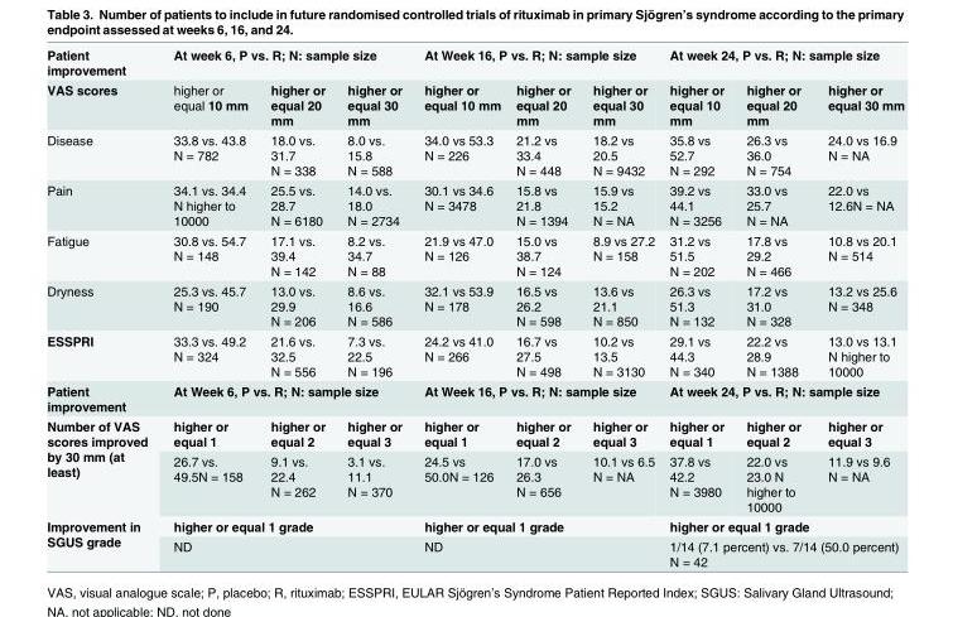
<table><tbody><tr><td>Patient improvement</td><td colspan="3">At week 6, P vs. R; N: sample size</td><td colspan="3">At Week 16, P vs. R; N: sample size</td><td colspan="3">At week 24, P vs. R; N: sample size</td></tr><tr><td>VAS scores</td><td>higher or equal 10 mm</td><td>higher or equal 20 mm</td><td>higher or equal 30 mm</td><td>higher or equal 10 mm</td><td>higher or equal 20 mm</td><td>higher or equal 30 mm</td><td>higher or equal 10 mm</td><td>higher or equal 20 mm</td><td>higher or equal 30 mm</td></tr><tr><td>Disease</td><td>33.8 vs. 43.8 N = 782</td><td>18.0 vs. 31.7 N = 338</td><td>8.0 vs. 15.8 N = 588</td><td>34.0 vs 53.3 N = 226</td><td>21.2 vs 33.4 N = 448</td><td>18.2 vs 20.5 N = 9432</td><td>35.8 vs 52.7 N = 292</td><td>26.3 vs 36.0 N = 754</td><td>24.0 vs 16.9 N = NA</td></tr><tr><td>Pain</td><td>34.1 vs. 34.4 N higher to 10000</td><td>25.5 vs. 28.7 N = 6180</td><td>14.0 vs. 18.0 N = 2734</td><td>30.1 vs 34.6 N = 3478</td><td>15.8 vs 21.8 N = 1394</td><td>15.9 vs 15.2 N = NA</td><td>39.2 vs 44.1 N = 3256</td><td>33.0 vs 25.7 N = NA</td><td>22.0 vs 12.6N = NA</td></tr><tr><td>Fatigue</td><td>30.8 vs. 54.7 N = 148</td><td>17.1 vs. 39.4 N = 142</td><td>8.2 vs. 34.7 N = 88</td><td>21.9 vs 47.0 N = 126</td><td>15.0 vs 38.7 N = 124</td><td>8.9 vs 27.2 N = 158</td><td>31.2 vs 51.5 N = 202</td><td>17.8 vs 29.2 N = 466</td><td>10.8 vs 20.1 N = 514</td></tr><tr><td>Dryness</td><td>25.3 vs. 45.7 N = 190</td><td>13.0 vs. 29.9 N = 206</td><td>8.6 vs. 16.6 N = 586</td><td>32.1 vs 53.9 N = 178</td><td>16.5 vs 26.2 N = 598</td><td>13.6 vs 21.1 N = 850</td><td>26.3 vs 51.3 N = 132</td><td>17.2 vs 31.0 N = 328</td><td>13.2 vs 25.6 N = 348</td></tr><tr><td>ESSPRI</td><td>33.3 vs. 49.2 N = 324</td><td>21.6 vs. 32.5 N = 556</td><td>7.3 vs. 22.5 N = 196</td><td>24.2 vs 41.0 N = 266</td><td>16.7 vs 27.5 N = 498</td><td>10.2 vs 13.5 N = 3130</td><td>29.1 vs 44.3 N = 340</td><td>22.2 vs 28.9 N = 1388</td><td>13.0 vs 13.1 N higher to 10000</td></tr><tr><td>Patient improvement</td><td colspan="3">At Week 6, P vs. R; N: sample size</td><td colspan="3">At Week 16, P vs. R; N: sample size</td><td colspan="3">At week 24, P vs. R; N: sample size</td></tr><tr><td rowspan="2">Number of VAS scores improved by 30 mm (at least)</td><td>higher or equal 1</td><td>higher or equal 2</td><td>higher or equal 3</td><td>higher or equal 1</td><td>higher or equal 2</td><td>higher or equal 3</td><td>higher or equal 1</td><td>higher or equal 2</td><td>higher or equal 3</td></tr><tr><td>26.7 vs. 49.5N = 158</td><td>9.1 vs. 22.4 N = 262</td><td>3.1 vs. 11.1 N = 370</td><td>24.5 vs 50.0N = 126</td><td>17.0 vs 26.3 N = 656</td><td>10.1 vs 6.5 N = NA</td><td>37.8 vs 42.2 N = 3980</td><td>22.0 vs 23.0 N higher to 10000</td><td>11.9 vs 9.6 N = NA</td></tr><tr><td rowspan="2">Improvement in SGUS grade</td><td colspan="3">higher or equal 1 grade</td><td colspan="3">higher or equal 1 grade</td><td colspan="3">higher or equal 1 grade</td></tr><tr><td colspan="3">ND</td><td colspan="3">ND</td><td colspan="3">1/14 (7.1 percent) vs. 7/14 (50.0 percent) N = 42</td></tr></tbody></table>